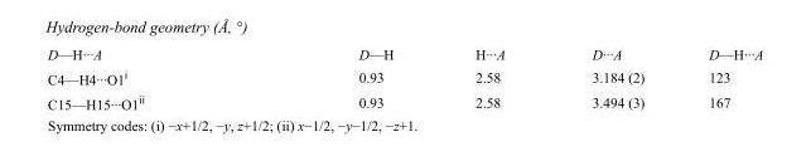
<table><tbody><tr><td>D—H···A</td><td>D—H</td><td>H···A</td><td>D···A</td><td>D—H···A</td></tr><tr><td>C4—H4···O1<sup>i</sup></td><td>0.93</td><td>2.58</td><td>3.184 (2)</td><td>123</td></tr><tr><td>C15—H15···O1<sup>ii</sup></td><td>0.93</td><td>2.58</td><td>3.494 (3)</td><td>167</td></tr></tbody></table>